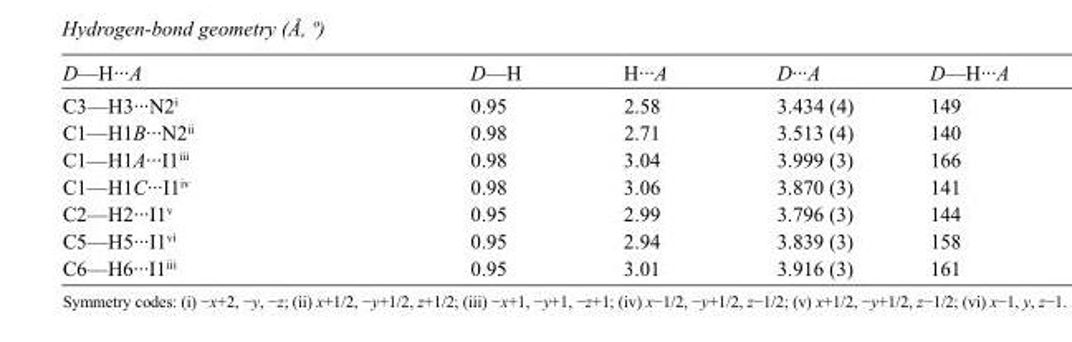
<table><tbody><tr><td>D—H···A</td><td>D—H</td><td>H···A</td><td>D···A</td><td>D—H···A</td></tr><tr><td>C3—H3···N2<sup>i</sup></td><td>0.95</td><td>2.58</td><td>3.434 (4)</td><td>149</td></tr><tr><td>C1—H1B···N2<sup>ii</sup></td><td>0.98</td><td>2.71</td><td>3.513 (4)</td><td>140</td></tr><tr><td>C1—H1A···I1<sup>iii</sup></td><td>0.98</td><td>3.04</td><td>3.999 (3)</td><td>166</td></tr><tr><td>C1—H1C···I1<sup>iv</sup></td><td>0.98</td><td>3.06</td><td>3.870 (3)</td><td>141</td></tr><tr><td>C2—H2···I1<sup>v</sup></td><td>0.95</td><td>2.99</td><td>3.796 (3)</td><td>144</td></tr><tr><td>C5—H5···I1<sup>vi</sup></td><td>0.95</td><td>2.94</td><td>3.839 (3)</td><td>158</td></tr><tr><td>C6—H6···I1<sup>iii</sup></td><td>0.95</td><td>3.01</td><td>3.916 (3)</td><td>161</td></tr></tbody></table>